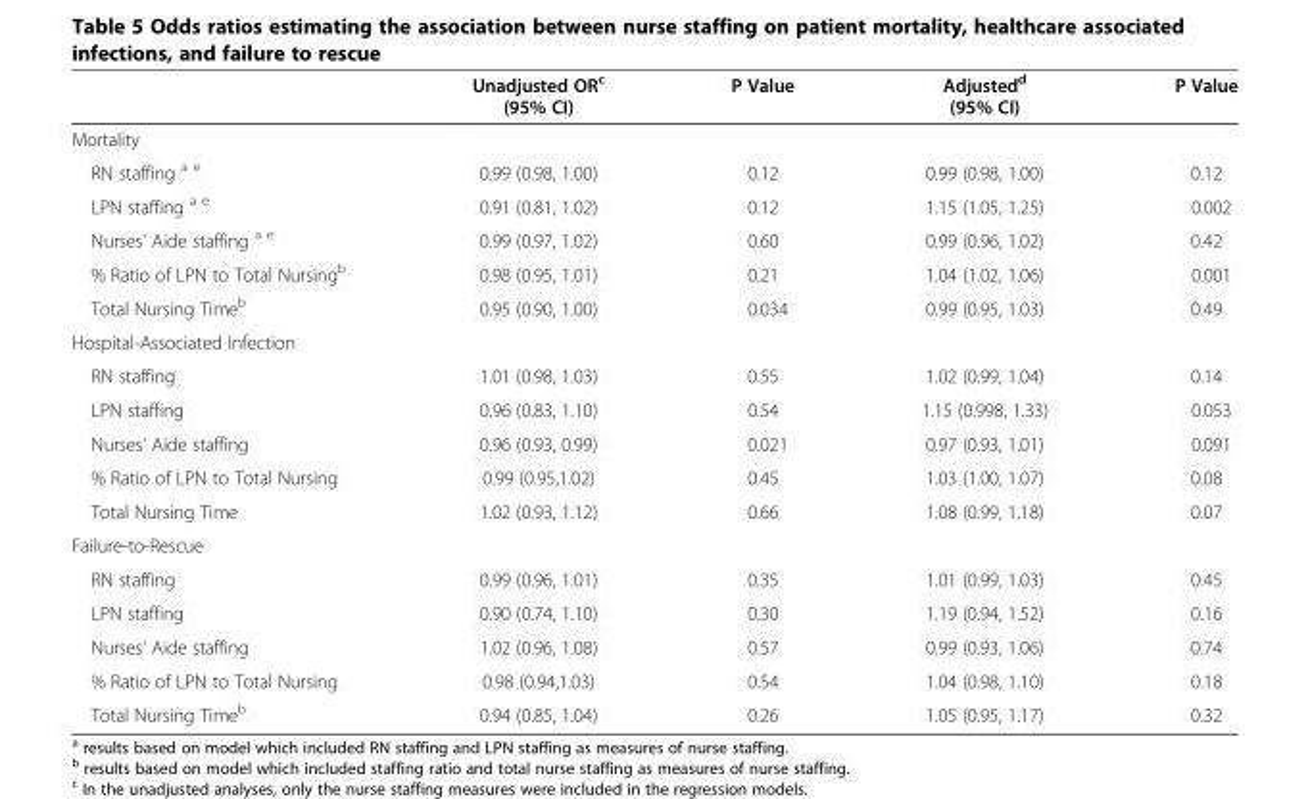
<table><thead><tr><td></td><td>Unadjusted OR<sup>c</sup> (95% CI)</td><td>P Value</td><td>Adjusted<sup>d</sup> (95% CI)</td><td>P Value</td></tr></thead><tbody><tr><td colspan="5">Mortality</td></tr><tr><td>RN staffing <sup>a e</sup></td><td>0.99 (0.98, 1.00)</td><td>0.12</td><td>0.99 (0.98, 1.00)</td><td>0.12</td></tr><tr><td>LPN staffing <sup>a e</sup></td><td>0.91 (0.81, 1.02)</td><td>0.12</td><td>1.15 (1.05, 1.25)</td><td>0.002</td></tr><tr><td>Nurses&#x27; Aide staffing <sup>a e</sup></td><td>0.99 (0.97, 1.02)</td><td>0.60</td><td>0.99 (0.96, 1.02)</td><td>0.42</td></tr><tr><td>% Ratio of LPN to Total Nursing<sup>b</sup></td><td>0.98 (0.95, 1.01)</td><td>0.21</td><td>1.04 (1.02, 1.06)</td><td>0.001</td></tr><tr><td>Total Nursing Time<sup>b</sup></td><td>0.95 (0.90, 1.00)</td><td>0.034</td><td>0.99 (0.95, 1.03)</td><td>0.49</td></tr><tr><td colspan="5">Hospital-Associated Infection</td></tr><tr><td>RN staffing</td><td>1.01 (0.98, 1.03)</td><td>0.55</td><td>1.02 (0.99, 1.04)</td><td>0.14</td></tr><tr><td>LPN staffing</td><td>0.96 (0.83, 1.10)</td><td>0.54</td><td>1.15 (0.998, 1.33)</td><td>0.053</td></tr><tr><td>Nurses&#x27; Aide staffing</td><td>0.96 (0.93, 0.99)</td><td>0.021</td><td>0.97 (0.93, 1.01)</td><td>0.091</td></tr><tr><td>% Ratio of LPN to Total Nursing</td><td>0.99 (0.95,1.02)</td><td>0.45</td><td>1.03 (1.00, 1.07)</td><td>0.08</td></tr><tr><td>Total Nursing Time</td><td>1.02 (0.93, 1.12)</td><td>0.66</td><td>1.08 (0.99, 1.18)</td><td>0.07</td></tr><tr><td colspan="5">Failure-to-Rescue</td></tr><tr><td>RN staffing</td><td>0.99 (0.96, 1.01)</td><td>0.35</td><td>1.01 (0.99, 1.03)</td><td>0.45</td></tr><tr><td>LPN staffing</td><td>0.90 (0.74, 1.10)</td><td>0.30</td><td>1.19 (0.94, 1.52)</td><td>0.16</td></tr><tr><td>Nurses&#x27; Aide staffing</td><td>1.02 (0.96, 1.08)</td><td>0.57</td><td>0.99 (0.93, 1.06)</td><td>0.74</td></tr><tr><td>% Ratio of LPN to Total Nursing</td><td>0.98 (0.94,1.03)</td><td>0.54</td><td>1.04 (0.98, 1.10)</td><td>0.18</td></tr><tr><td>Total Nursing Time<sup>b</sup></td><td>0.94 (0.85, 1.04)</td><td>0.26</td><td>1.05 (0.95, 1.17)</td><td>0.32</td></tr></tbody></table>